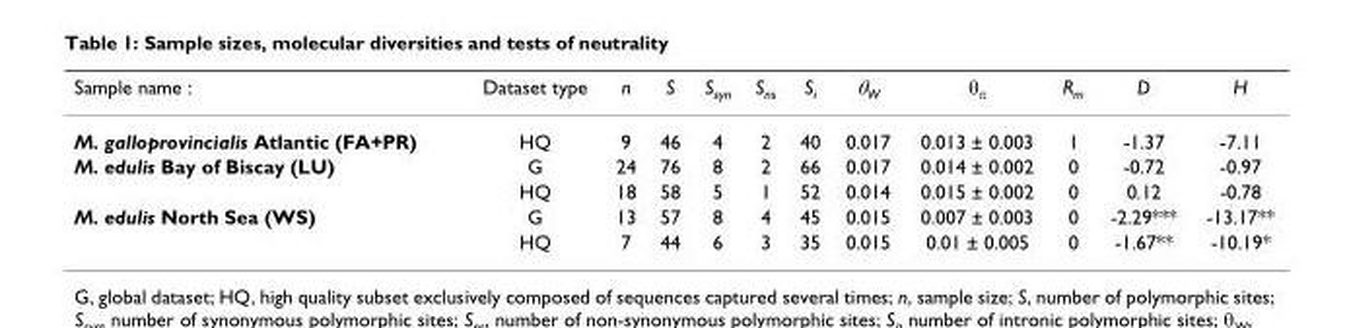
<table><thead><tr><td>Sample name :</td><td>Dataset type</td><td>n</td><td>S</td><td>S<sub>syn</sub></td><td>S<sub>ns</sub></td><td>S<sub>i</sub></td><td>θ<sub>W</sub></td><td>θ<sub>π</sub></td><td>R<sub>m</sub></td><td>D</td><td>H</td></tr></thead><tbody><tr><td>M. galloprovincialis Atlantic (FA+PR)</td><td>HQ</td><td>9</td><td>46</td><td>4</td><td>2</td><td>40</td><td>0.017</td><td>0.013 ± 0.003</td><td>1</td><td>-1.37</td><td>-7.11</td></tr><tr><td rowspan="2">M. edulis Bay of Biscay (LU)</td><td>G</td><td>24</td><td>76</td><td>8</td><td>2</td><td>66</td><td>0.017</td><td>0.014 ± 0.002</td><td>0</td><td>-0.72</td><td>-0.97</td></tr><tr><td>HQ</td><td>18</td><td>58</td><td>5</td><td>1</td><td>52</td><td>0.014</td><td>0.015 ± 0.002</td><td>0</td><td>0.12</td><td>-0.78</td></tr><tr><td rowspan="2">M. edulis North Sea (WS)</td><td>G</td><td>13</td><td>57</td><td>8</td><td>4</td><td>45</td><td>0.015</td><td>0.007 ± 0.003</td><td>0</td><td>-2.29***</td><td>-13.17**</td></tr><tr><td>HQ</td><td>7</td><td>44</td><td>6</td><td>3</td><td>35</td><td>0.015</td><td>0.01 ± 0.005</td><td>0</td><td>-1.67**</td><td>-10.19*</td></tr></tbody></table>